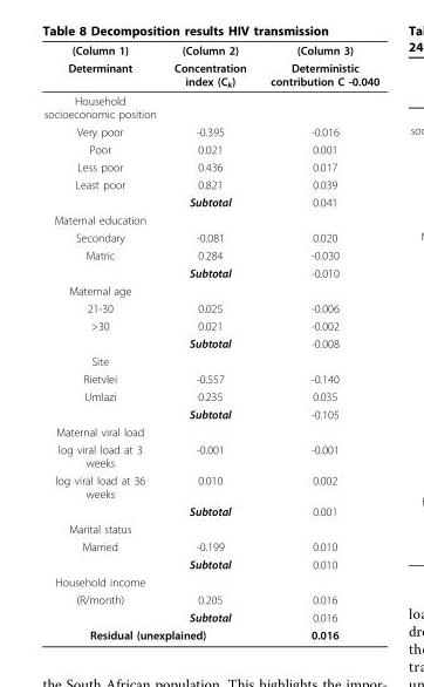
<table><thead><tr><td rowspan="2">(Column 1) Determinant</td><td rowspan="2">(Column 2) Concentration index (C<sub>k</sub>)</td><td rowspan="2">(Column 3) Deterministic contribution C -0.040</td></tr><tr></tr></thead><tbody><tr><td colspan="3">Household socioeconomic position</td></tr><tr><td>Very poor</td><td>-0.395</td><td>-0.016</td></tr><tr><td>Poor</td><td>0.021</td><td>0.001</td></tr><tr><td>Less poor</td><td>0.436</td><td>0.017</td></tr><tr><td rowspan="2">Least poor</td><td>0.821</td><td>0.039</td></tr><tr><td>Subtotal</td><td>0.041</td></tr><tr><td colspan="3">Maternal education</td></tr><tr><td>Secondary</td><td>-0.081</td><td>0.020</td></tr><tr><td rowspan="2">Matric</td><td>0.284</td><td>-0.030</td></tr><tr><td>Subtotal</td><td>-0.010</td></tr><tr><td colspan="3">Maternal age</td></tr><tr><td>21-30</td><td>0.025</td><td>-0.006</td></tr><tr><td rowspan="2">&gt;30</td><td>0.021</td><td>-0.002</td></tr><tr><td>Subtotal</td><td>-0.008</td></tr><tr><td colspan="3">Site</td></tr><tr><td>Rietvlei</td><td>-0.557</td><td>-0.140</td></tr><tr><td rowspan="2">Umlazi</td><td>0.235</td><td>0.035</td></tr><tr><td>Subtotal</td><td>-0.105</td></tr><tr><td colspan="3">Maternal viral load</td></tr><tr><td>log viral load at 3 weeks</td><td>-0.001</td><td>-0.001</td></tr><tr><td rowspan="2">log viral load at 36 weeks</td><td>0.010</td><td>0.002</td></tr><tr><td>Subtotal</td><td>0.001</td></tr><tr><td colspan="3">Marital status</td></tr><tr><td rowspan="2">Married</td><td>-0.199</td><td>0.010</td></tr><tr><td>Subtotal</td><td>0.010</td></tr><tr><td colspan="3">Household income</td></tr><tr><td rowspan="2">(R/month)</td><td>0.205</td><td>0.016</td></tr><tr><td>Subtotal</td><td>0.016</td></tr><tr><td colspan="2">Residual (unexplained)</td><td>0.016</td></tr></tbody></table>